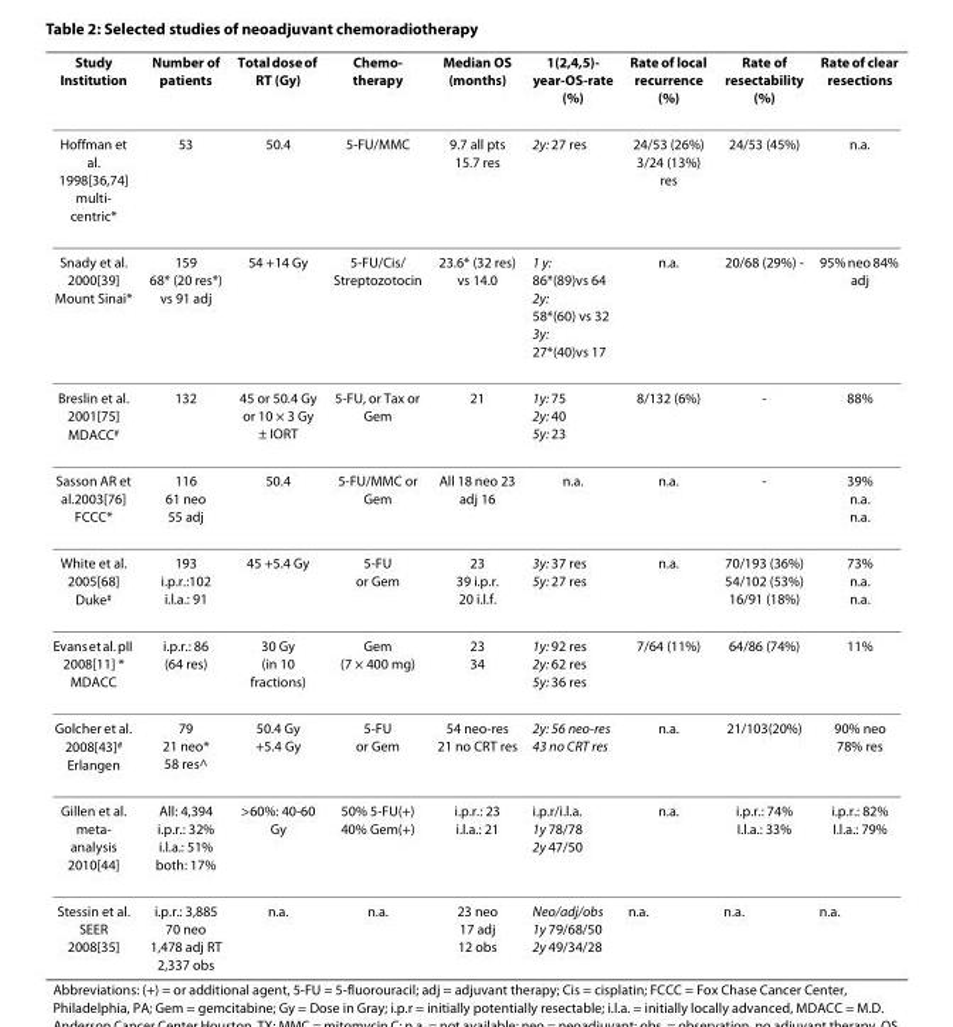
<table><thead><tr><td>Study Institution</td><td>Number of patients</td><td>Total dose of RT (Gy)</td><td>Chemo- therapy</td><td>Median OS (months)</td><td>1(2,4,5)- year-OS-rate (%)</td><td>Rate of local recurrence (%)</td><td>Rate of resectability (%)</td><td>Rate of clear resections</td></tr></thead><tbody><tr><td>Hoffman et al. 1998[36,74] multi- centric*</td><td>53</td><td>50.4</td><td>5-FU/MMC</td><td>9.7 all pts 15.7 res</td><td>2y: 27 res</td><td>24/53 (26%) 3/24 (13%) res</td><td>24/53 (45%)</td><td>n.a.</td></tr><tr><td>Snady et al. 2000[39] Mount Sinai*</td><td>159 68* (20 res*) vs 91 adj</td><td>54 +14 Gy</td><td>5-FU/Cis/ Streptozotocin</td><td>23.6* (32 res) vs 14.0</td><td>1 y: 86*(89)vs 64 2y: 58*(60) vs 32 3y: 27*(40)vs 17</td><td>n.a.</td><td>20/68 (29%) -</td><td>95% neo 84% adj</td></tr><tr><td>Breslin et al. 2001[75] MDACC<sup>#</sup></td><td>132</td><td>45 or 50.4 Gy or 10 × 3 Gy ± IORT</td><td>5-FU, or Tax or Gem</td><td>21</td><td>1y: 75 2y: 40 5y: 23</td><td>8/132 (6%)</td><td>-</td><td>88%</td></tr><tr><td>Sasson AR et al.2003[76] FCCC*</td><td>116 61 neo 55 adj</td><td>50.4</td><td>5-FU/MMC or Gem</td><td>All 18 neo 23 adj 16</td><td>n.a.</td><td>n.a.</td><td>-</td><td>39% n.a. n.a.</td></tr><tr><td>White et al. 2005[68] Duke<sup>#</sup></td><td>193 i.p.r.:102 i.l.a.: 91</td><td>45 +5.4 Gy</td><td>5-FU or Gem</td><td>23 39 i.p.r. 20 i.l.f.</td><td>3y: 37 res 5y: 27 res</td><td>n.a.</td><td>70/193 (36%) 54/102 (53%) 16/91 (18%)</td><td>73% n.a. n.a.</td></tr><tr><td>Evans et al. pII 2008[11] * MDACC</td><td>i.p.r.: 86 (64 res)</td><td>30 Gy (in 10 fractions)</td><td>Gem (7 × 400 mg)</td><td>23 34</td><td>1y: 92 res 2y: 62 res 5y: 36 res</td><td>7/64 (11%)</td><td>64/86 (74%)</td><td>11%</td></tr><tr><td>Golcher et al. 2008[43]<sup>#</sup> Erlangen</td><td>79 21 neo* 58 res^</td><td>50.4 Gy +5.4 Gy</td><td>5-FU or Gem</td><td>54 neo-res 21 no CRT res</td><td>2y: 56 neo-res 43 no CRT res</td><td>n.a.</td><td>21/103(20%)</td><td>90% neo 78% res</td></tr><tr><td>Gillen et al. meta- analysis 2010[44]</td><td>All: 4,394 i.p.r.: 32% i.l.a.: 51% both: 17%</td><td>&gt;60%: 40-60 Gy</td><td>50% 5-FU(+) 40% Gem(+)</td><td>i.p.r.: 23 i.l.a.: 21</td><td>i.p.r/i.l.a. 1y 78/78 2y 47/50</td><td>n.a.</td><td>i.p.r.: 74% I.l.a.: 33%</td><td>i.p.r.: 82% I.l.a.: 79%</td></tr><tr><td>Stessin et al. SEER 2008[35]</td><td>i.p.r.: 3,885 70 neo 1,478 adj RT 2,337 obs</td><td>n.a.</td><td>n.a.</td><td>23 neo 17 adj 12 obs</td><td>Neo/adj/obs 1y 79/68/50 2y 49/34/28</td><td>n.a.</td><td>n.a.</td><td>n.a.</td></tr></tbody></table>